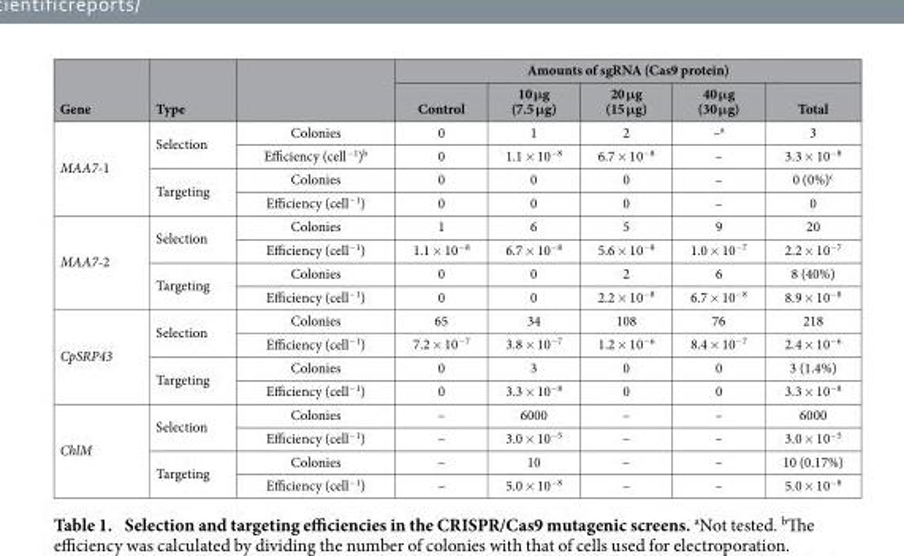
<table><thead><tr><td rowspan="2">Gene</td><td rowspan="2">Type</td><td rowspan="2"></td><td colspan="5">Amounts of sgRNA (Cas9 protein)</td></tr><tr><td>Control</td><td>10 μg (7.5 μg)</td><td>20 μg (15 μg)</td><td>40 μg (30 μg)</td><td>Total</td></tr></thead><tbody><tr><td rowspan="4">MAA7-1</td><td rowspan="2">Selection</td><td>Colonies</td><td>0</td><td>1</td><td>2</td><td>–a</td><td>3</td></tr><tr><td>Efficiency (cell<sup>−1</sup>)<sup>b</sup></td><td>0</td><td>1.1 × 10<sup>−8</sup></td><td>6.7 × 10<sup>−8</sup></td><td>–</td><td>3.3 × 10<sup>−8</sup></td></tr><tr><td rowspan="2">Targeting</td><td>Colonies</td><td>0</td><td>0</td><td>0</td><td>–</td><td>0 (0%)<sup>c</sup></td></tr><tr><td>Efficiency (cell<sup>−1</sup>)</td><td>0</td><td>0</td><td>0</td><td>–</td><td>0</td></tr><tr><td rowspan="4">MAA7-2</td><td rowspan="2">Selection</td><td>Colonies</td><td>1</td><td>6</td><td>5</td><td>9</td><td>20</td></tr><tr><td>Efficiency (cell<sup>−1</sup>)</td><td>1.1 × 10<sup>−8</sup></td><td>6.7 × 10<sup>−8</sup></td><td>5.6 × 10<sup>−8</sup></td><td>1.0 × 10<sup>−7</sup></td><td>2.2 × 10<sup>−7</sup></td></tr><tr><td rowspan="2">Targeting</td><td>Colonies</td><td>0</td><td>0</td><td>2</td><td>6</td><td>8 (40%)</td></tr><tr><td>Efficiency (cell<sup>−1</sup>)</td><td>0</td><td>0</td><td>2.2 × 10<sup>−8</sup></td><td>6.7 × 10<sup>−8</sup></td><td>8.9 × 10<sup>−8</sup></td></tr><tr><td rowspan="4">CpSRP43</td><td rowspan="2">Selection</td><td>Colonies</td><td>65</td><td>34</td><td>108</td><td>76</td><td>218</td></tr><tr><td>Efficiency (cell<sup>−1</sup>)</td><td>7.2 × 10<sup>−7</sup></td><td>3.8 × 10<sup>−7</sup></td><td>1.2 × 10<sup>−6</sup></td><td>8.4 × 10<sup>−7</sup></td><td>2.4 × 10<sup>−6</sup></td></tr><tr><td rowspan="2">Targeting</td><td>Colonies</td><td>0</td><td>3</td><td>0</td><td>0</td><td>3 (1.4%)</td></tr><tr><td>Efficiency (cell<sup>−1</sup>)</td><td>0</td><td>3.3 × 10<sup>−8</sup></td><td>0</td><td>0</td><td>3.3 × 10<sup>−8</sup></td></tr><tr><td rowspan="4">ChlM</td><td rowspan="2">Selection</td><td>Colonies</td><td>–</td><td>6000</td><td>–</td><td>–</td><td>6000</td></tr><tr><td>Efficiency (cell<sup>−1</sup>)</td><td>–</td><td>3.0 × 10<sup>−5</sup></td><td>–</td><td>–</td><td>3.0 × 10<sup>−5</sup></td></tr><tr><td rowspan="2">Targeting</td><td>Colonies</td><td>–</td><td>10</td><td>–</td><td>–</td><td>10 (0.17%)</td></tr><tr><td>Efficiency (cell<sup>−1</sup>)</td><td>–</td><td>5.0 × 10<sup>−8</sup></td><td>–</td><td>–</td><td>5.0 × 10<sup>−8</sup></td></tr></tbody></table>